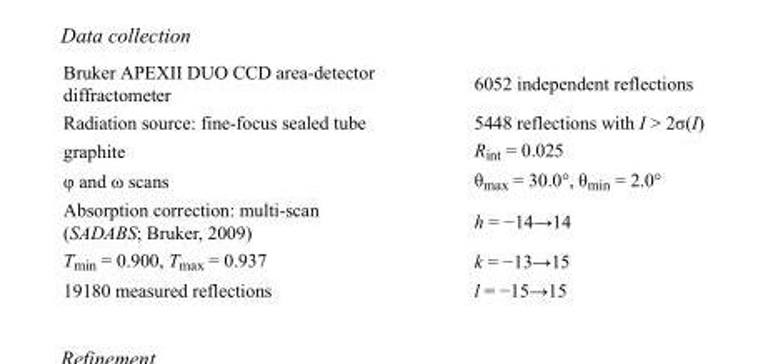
<table><tbody><tr><td>Bruker APEXII DUO CCD area-detector diffractometer</td><td>6052 independent reflections</td></tr><tr><td>Radiation source: fine-focus sealed tube</td><td>5448 reflections with I &gt; 2σ(I)</td></tr><tr><td>graphite</td><td>R<sub>int</sub> = 0.025</td></tr><tr><td>φ and ω scans</td><td>θ<sub>max</sub> = 30.0°, θ<sub>min</sub> = 2.0°</td></tr><tr><td>Absorption correction: multi-scan (SADABS; Bruker, 2009)</td><td>h = −14→14</td></tr><tr><td>T<sub>min</sub> = 0.900, T<sub>max</sub> = 0.937</td><td>k = −13→15</td></tr><tr><td>19180 measured reflections</td><td>l = −15→15</td></tr></tbody></table>